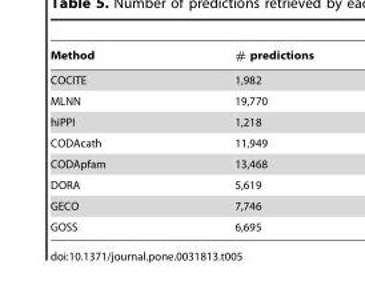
<table><thead><tr><td>Method</td><td># predictions</td></tr></thead><tbody><tr><td>COCITE</td><td>1,982</td></tr><tr><td>MLNN</td><td>19,770</td></tr><tr><td>hiPPI</td><td>1,218</td></tr><tr><td>CODAcath</td><td>11,949</td></tr><tr><td>CODApfam</td><td>13,468</td></tr><tr><td>DORA</td><td>5,619</td></tr><tr><td>GECO</td><td>7,746</td></tr><tr><td>GOSS</td><td>6,695</td></tr></tbody></table>